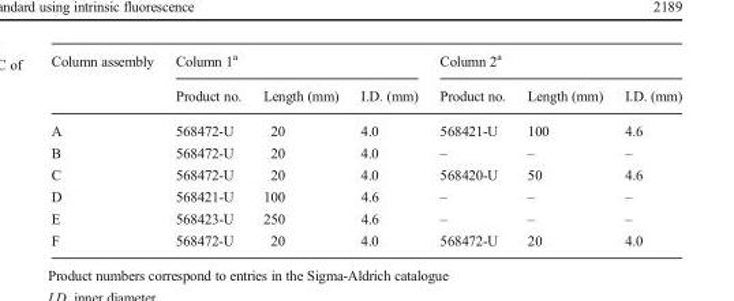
<table><thead><tr><td rowspan="2">Column assembly</td><td colspan="3">Column 1<sup>a</sup></td><td colspan="3">Column 2<sup>a</sup></td></tr><tr><td>Product no.</td><td>Length (mm)</td><td>I.D. (mm)</td><td>Product no.</td><td>Length (mm)</td><td>I.D. (mm)</td></tr></thead><tbody><tr><td>A</td><td>568472-U</td><td>20</td><td>4.0</td><td>568421-U</td><td>100</td><td>4.6</td></tr><tr><td>B</td><td>568472-U</td><td>20</td><td>4.0</td><td>–</td><td>–</td><td>–</td></tr><tr><td>C</td><td>568472-U</td><td>20</td><td>4.0</td><td>568420-U</td><td>50</td><td>4.6</td></tr><tr><td>D</td><td>568421-U</td><td>100</td><td>4.6</td><td>–</td><td>–</td><td>–</td></tr><tr><td>E</td><td>568423-U</td><td>250</td><td>4.6</td><td>–</td><td>–</td><td>–</td></tr><tr><td>F</td><td>568472-U</td><td>20</td><td>4.0</td><td>568472-U</td><td>20</td><td>4.0</td></tr></tbody></table>